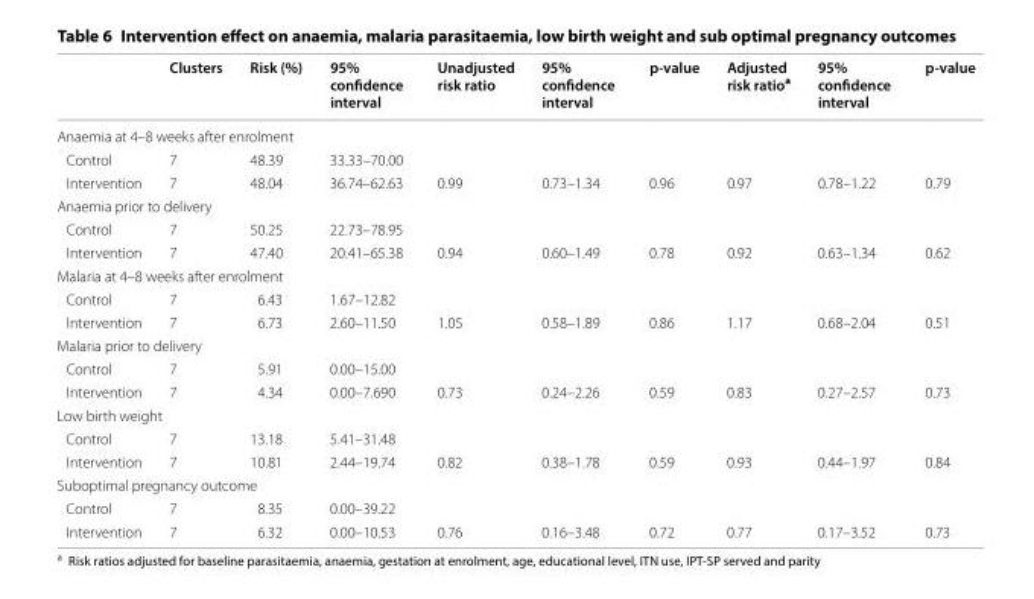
<table><thead><tr><td></td><td>Clusters</td><td>Risk (%)</td><td>95% confidence interval</td><td>Unadjusted risk ratio</td><td>95% confidence interval</td><td>p-value</td><td>Adjusted risk ratio<sup>a</sup></td><td>95% confidence interval</td><td>p-value</td></tr></thead><tbody><tr><td colspan="10">Anaemia at 4–8 weeks after enrolment</td></tr><tr><td>Control</td><td>7</td><td>48.39</td><td>33.33–70.00</td><td></td><td></td><td></td><td></td><td></td><td></td></tr><tr><td>Intervention</td><td>7</td><td>48.04</td><td>36.74–62.63</td><td>0.99</td><td>0.73–1.34</td><td>0.96</td><td>0.97</td><td>0.78–1.22</td><td>0.79</td></tr><tr><td colspan="10">Anaemia prior to delivery</td></tr><tr><td>Control</td><td>7</td><td>50.25</td><td>22.73–78.95</td><td></td><td></td><td></td><td></td><td></td><td></td></tr><tr><td>Intervention</td><td>7</td><td>47.40</td><td>20.41–65.38</td><td>0.94</td><td>0.60–1.49</td><td>0.78</td><td>0.92</td><td>0.63–1.34</td><td>0.62</td></tr><tr><td colspan="10">Malaria at 4–8 weeks after enrolment</td></tr><tr><td>Control</td><td>7</td><td>6.43</td><td>1.67–12.82</td><td></td><td></td><td></td><td></td><td></td><td></td></tr><tr><td>Intervention</td><td>7</td><td>6.73</td><td>2.60–11.50</td><td>1.05</td><td>0.58–1.89</td><td>0.86</td><td>1.17</td><td>0.68–2.04</td><td>0.51</td></tr><tr><td colspan="10">Malaria prior to delivery</td></tr><tr><td>Control</td><td>7</td><td>5.91</td><td>0.00–15.00</td><td></td><td></td><td></td><td></td><td></td><td></td></tr><tr><td>Intervention</td><td>7</td><td>4.34</td><td>0.00–7.690</td><td>0.73</td><td>0.24–2.26</td><td>0.59</td><td>0.83</td><td>0.27–2.57</td><td>0.73</td></tr><tr><td colspan="10">Low birth weight</td></tr><tr><td>Control</td><td>7</td><td>13.18</td><td>5.41–31.48</td><td></td><td></td><td></td><td></td><td></td><td></td></tr><tr><td>Intervention</td><td>7</td><td>10.81</td><td>2.44–19.74</td><td>0.82</td><td>0.38–1.78</td><td>0.59</td><td>0.93</td><td>0.44–1.97</td><td>0.84</td></tr><tr><td colspan="10">Suboptimal pregnancy outcome</td></tr><tr><td>Control</td><td>7</td><td>8.35</td><td>0.00–39.22</td><td></td><td></td><td></td><td></td><td></td><td></td></tr><tr><td>Intervention</td><td>7</td><td>6.32</td><td>0.00–10.53</td><td>0.76</td><td>0.16–3.48</td><td>0.72</td><td>0.77</td><td>0.17–3.52</td><td>0.73</td></tr></tbody></table>